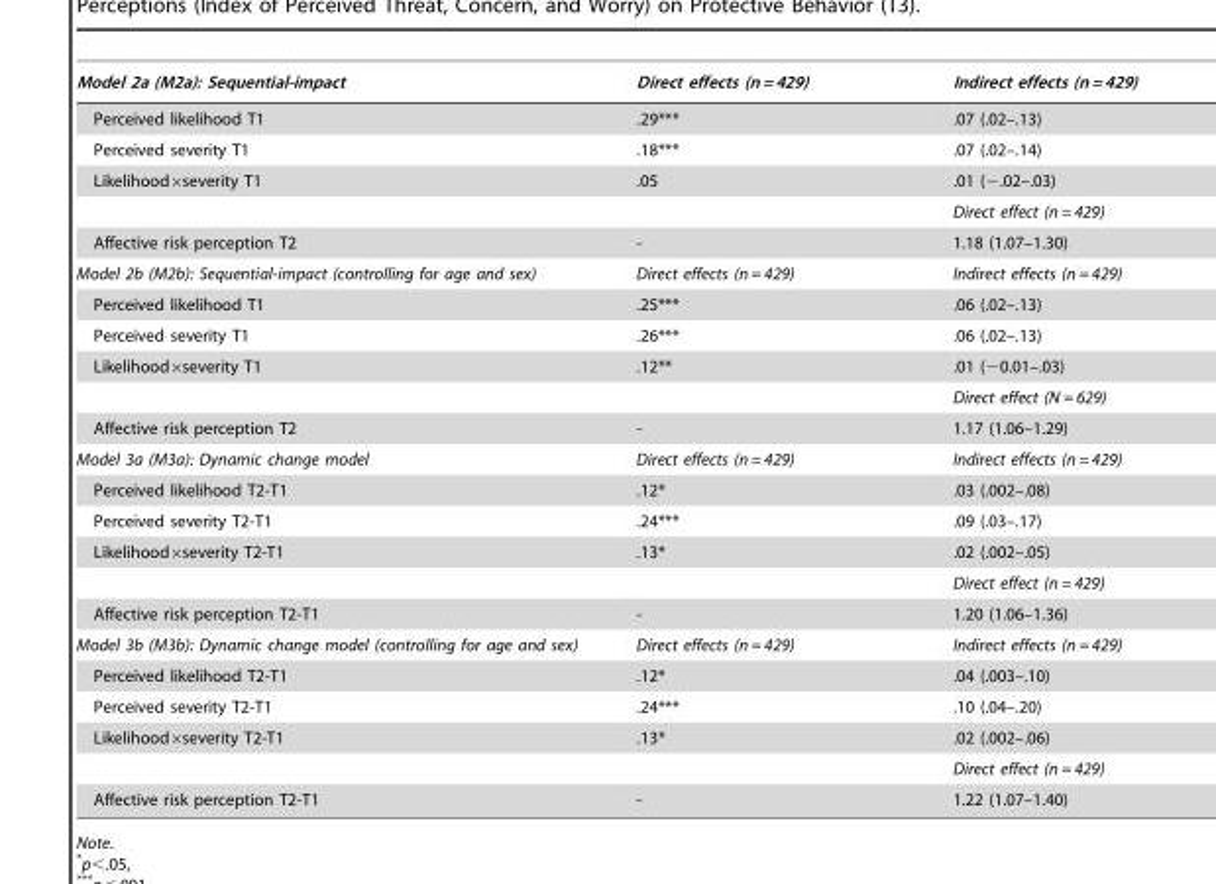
<table><thead><tr><td>Model 2a (M2a): Sequential-impact</td><td>Direct effects (n = 429)</td><td>Indirect effects (n = 429)</td></tr></thead><tbody><tr><td>Perceived likelihood T1</td><td>.29***</td><td>.07 (.02–.13)</td></tr><tr><td>Perceived severity T1</td><td>.18***</td><td>.07 (.02–.14)</td></tr><tr><td rowspan="2">Likelihood×severity T1</td><td>.05</td><td>.01 (−.02–.03)</td></tr><tr><td></td><td>Direct effect (n = 429)</td></tr><tr><td>Affective risk perception T2</td><td>-</td><td>1.18 (1.07–1.30)</td></tr><tr><td>Model 2b (M2b): Sequential-impact (controlling for age and sex)</td><td>Direct effects (n = 429)</td><td>Indirect effects (n = 429)</td></tr><tr><td>Perceived likelihood T1</td><td>.25***</td><td>.06 (.02–.13)</td></tr><tr><td>Perceived severity T1</td><td>.26***</td><td>.06 (.02–.13)</td></tr><tr><td rowspan="2">Likelihood×severity T1</td><td>.12**</td><td>.01 (−0.01–.03)</td></tr><tr><td></td><td>Direct effect (N = 629)</td></tr><tr><td>Affective risk perception T2</td><td>-</td><td>1.17 (1.06–1.29)</td></tr><tr><td>Model 3a (M3a): Dynamic change model</td><td>Direct effects (n = 429)</td><td>Indirect effects (n = 429)</td></tr><tr><td>Perceived likelihood T2-T1</td><td>.12*</td><td>.03 (.002–.08)</td></tr><tr><td>Perceived severity T2-T1</td><td>.24***</td><td>.09 (.03–.17)</td></tr><tr><td rowspan="2">Likelihood×severity T2-T1</td><td>.13*</td><td>.02 (.002–.05)</td></tr><tr><td></td><td>Direct effect (n = 429)</td></tr><tr><td>Affective risk perception T2-T1</td><td>-</td><td>1.20 (1.06–1.36)</td></tr><tr><td>Model 3b (M3b): Dynamic change model (controlling for age and sex)</td><td>Direct effects (n = 429)</td><td>Indirect effects (n = 429)</td></tr><tr><td>Perceived likelihood T2-T1</td><td>.12*</td><td>.04 (.003–.10)</td></tr><tr><td>Perceived severity T2-T1</td><td>.24***</td><td>.10 (.04–.20)</td></tr><tr><td rowspan="2">Likelihood×severity T2-T1</td><td>.13*</td><td>.02 (.002–.06)</td></tr><tr><td></td><td>Direct effect (n = 429)</td></tr><tr><td>Affective risk perception T2-T1</td><td>-</td><td>1.22 (1.07–1.40)</td></tr></tbody></table>